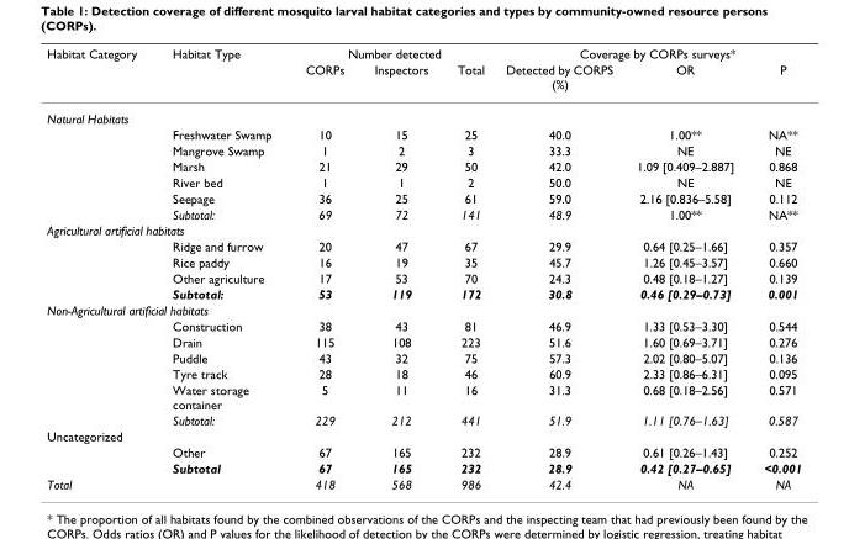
<table><thead><tr><td rowspan="2">Habitat Category</td><td rowspan="2">Habitat Type</td><td colspan="3">Number detected</td><td colspan="3">Coverage by CORPs surveys*</td></tr><tr><td>CORPs</td><td>Inspectors</td><td>Total</td><td>Detected by CORPS (%)</td><td>OR</td><td>P</td></tr></thead><tbody><tr><td colspan="8">Natural Habitats</td></tr><tr><td></td><td>Freshwater Swamp</td><td>10</td><td>15</td><td>25</td><td>40.0</td><td>1.00**</td><td>NA**</td></tr><tr><td></td><td>Mangrove Swamp</td><td>1</td><td>2</td><td>3</td><td>33.3</td><td>NE</td><td>NE</td></tr><tr><td></td><td>Marsh</td><td>21</td><td>29</td><td>50</td><td>42.0</td><td>1.09 [0.409–2.887]</td><td>0.868</td></tr><tr><td></td><td>River bed</td><td>1</td><td>1</td><td>2</td><td>50.0</td><td>NE</td><td>NE</td></tr><tr><td></td><td>Seepage</td><td>36</td><td>25</td><td>61</td><td>59.0</td><td>2.16 [0.836–5.58]</td><td>0.112</td></tr><tr><td></td><td>Subtotal:</td><td>69</td><td>72</td><td>141</td><td>48.9</td><td>1.00**</td><td>NA**</td></tr><tr><td colspan="8">Agricultural artificial habitats</td></tr><tr><td></td><td>Ridge and furrow</td><td>20</td><td>47</td><td>67</td><td>29.9</td><td>0.64 [0.25–1.66]</td><td>0.357</td></tr><tr><td></td><td>Rice paddy</td><td>16</td><td>19</td><td>35</td><td>45.7</td><td>1.26 [0.45–3.57]</td><td>0.660</td></tr><tr><td></td><td>Other agriculture</td><td>17</td><td>53</td><td>70</td><td>24.3</td><td>0.48 [0.18–1.27]</td><td>0.139</td></tr><tr><td></td><td>Subtotal:</td><td>53</td><td>119</td><td>172</td><td>30.8</td><td>0.46 [0.29–0.73]</td><td>0.001</td></tr><tr><td colspan="8">Non-Agricultural artificial habitats</td></tr><tr><td></td><td>Construction</td><td>38</td><td>43</td><td>81</td><td>46.9</td><td>1.33 [0.53–3.30]</td><td>0.544</td></tr><tr><td></td><td>Drain</td><td>115</td><td>108</td><td>223</td><td>51.6</td><td>1.60 [0.69–3.71]</td><td>0.276</td></tr><tr><td></td><td>Puddle</td><td>43</td><td>32</td><td>75</td><td>57.3</td><td>2.02 [0.80–5.07]</td><td>0.136</td></tr><tr><td></td><td>Tyre track</td><td>28</td><td>18</td><td>46</td><td>60.9</td><td>2.33 [0.86–6.31]</td><td>0.095</td></tr><tr><td></td><td>Water storage container</td><td>5</td><td>11</td><td>16</td><td>31.3</td><td>0.68 [0.18–2.56]</td><td>0.571</td></tr><tr><td></td><td>Subtotal:</td><td>229</td><td>212</td><td>441</td><td>51.9</td><td>1.11 [0.76–1.63]</td><td>0.587</td></tr><tr><td colspan="8">Uncategorized</td></tr><tr><td></td><td>Other</td><td>67</td><td>165</td><td>232</td><td>28.9</td><td>0.61 [0.26–1.43]</td><td>0.252</td></tr><tr><td></td><td>Subtotal</td><td>67</td><td>165</td><td>232</td><td>28.9</td><td>0.42 [0.27–0.65]</td><td>&lt;0.001</td></tr><tr><td>Total</td><td></td><td>418</td><td>568</td><td>986</td><td>42.4</td><td>NA</td><td>NA</td></tr></tbody></table>